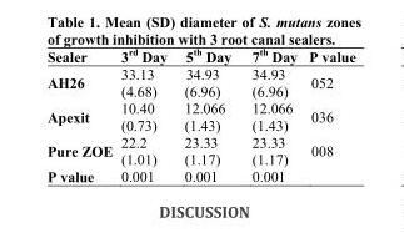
<table><thead><tr><td>Sealer</td><td>3<sup>rd</sup> Day</td><td>5<sup>th</sup> Day</td><td>7<sup>th</sup> Day</td><td>P value</td></tr></thead><tbody><tr><td>AH26</td><td>33.13 (4.68)</td><td>34.93 (6.96)</td><td>34.93 (6.96)</td><td>052</td></tr><tr><td>Apexit</td><td>10.40 (0.73)</td><td>12.066 (1.43)</td><td>12.066 (1.43)</td><td>036</td></tr><tr><td>Pure ZOE</td><td>22.2 (1.01)</td><td>23.33 (1.17)</td><td>23.33 (1.17)</td><td>008</td></tr><tr><td>P value</td><td>0.001</td><td>0.001</td><td>0.001</td><td></td></tr></tbody></table>